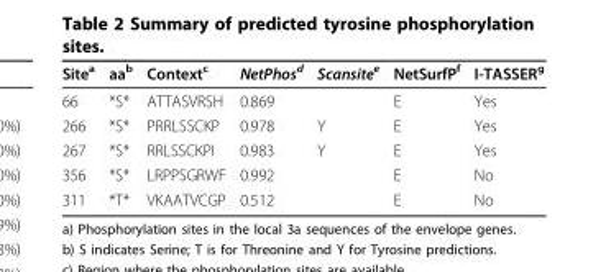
<table><thead><tr><td>Site<sup>a</sup></td><td>aa<sup>b</sup></td><td>Context<sup>c</sup></td><td>NetPhos<sup>d</sup></td><td>Scansite<sup>e</sup></td><td>NetSurfP<sup>f</sup></td><td>I-TASSER<sup>g</sup></td></tr></thead><tbody><tr><td>66</td><td>*S*</td><td>ATTASVRSH</td><td>0.869</td><td></td><td>E</td><td>Yes</td></tr><tr><td>266</td><td>*S*</td><td>PRRLSSCKP</td><td>0.978</td><td>Y</td><td>E</td><td>Yes</td></tr><tr><td>267</td><td>*S*</td><td>RRLSSCKPI</td><td>0.983</td><td>Y</td><td>E</td><td>Yes</td></tr><tr><td>356</td><td>*S*</td><td>LRPPSGRWF</td><td>0.992</td><td></td><td>E</td><td>No</td></tr><tr><td>311</td><td>*T*</td><td>VKAATVCGP</td><td>0.512</td><td></td><td>E</td><td>No</td></tr></tbody></table>